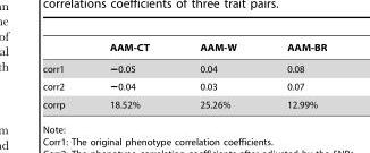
<table><thead><tr><td></td><td>AAM-CT</td><td>AAM-W</td><td>AAM-BR</td></tr></thead><tbody><tr><td>corr1</td><td>−0.05</td><td>0.04</td><td>0.08</td></tr><tr><td>corr2</td><td>−0.04</td><td>0.03</td><td>0.07</td></tr><tr><td>corrp</td><td>18.52%</td><td>25.26%</td><td>12.99%</td></tr></tbody></table>